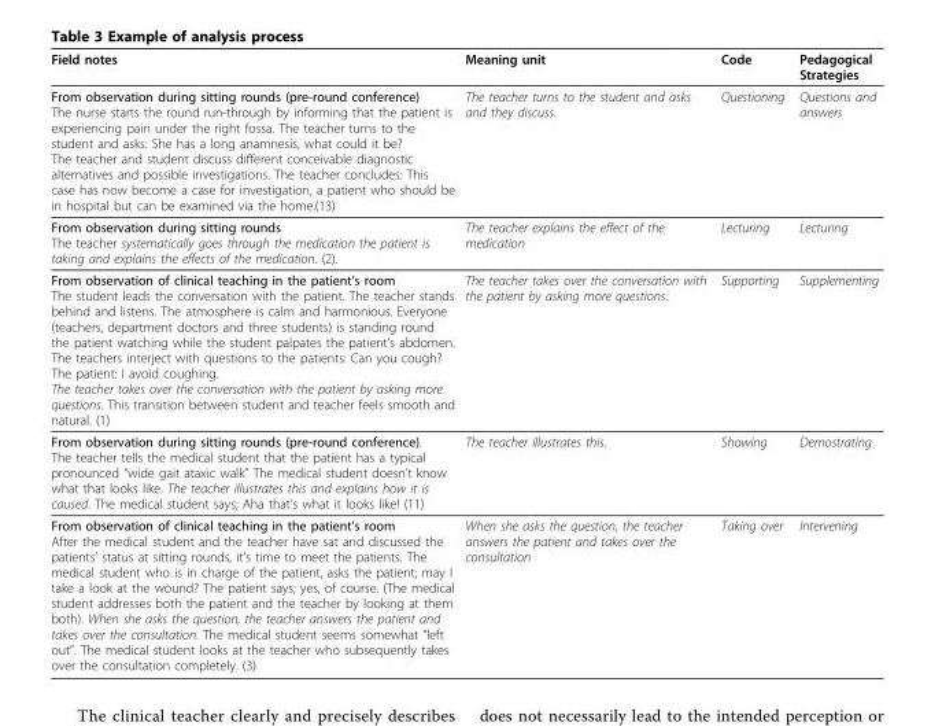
<table><thead><tr><td>Field notes</td><td>Meaning unit</td><td>Code</td><td>Pedagogical Strategies</td></tr></thead><tbody><tr><td>From observation during sitting rounds (pre-round conference) The nurse starts the round run-through by informing that the patient is experiencing pain under the right fossa. The teacher turns to the student and asks: She has a long anamnesis, what could it be? The teacher and student discuss different conceivable diagnostic alternatives and possible investigations. The teacher concludes: This case has now become a case for investigation, a patient who should be in hospital but can be examined via the home.(13)</td><td>The teacher turns to the student and asks and they discuss.</td><td>Questioning</td><td>Questions and answers</td></tr><tr><td>From observation during sitting rounds The teacher systematically goes through the medication the patient is taking and explains the effects of the medication. (2).</td><td>The teacher explains the effect of the medication</td><td>Lecturing</td><td>Lecturing</td></tr><tr><td>From observation of clinical teaching in the patient’s room The student leads the conversation with the patient. The teacher stands behind and listens. The atmosphere is calm and harmonious. Everyone (teachers, department doctors and three students) is standing round the patient watching while the student palpates the patient’s abdomen. The teachers interject with questions to the patients: Can you cough? The patient: I avoid coughing. The teacher takes over the conversation with the patient by asking more questions. This transition between student and teacher feels smooth and natural. (1)</td><td>The teacher takes over the conversation with the patient by asking more questions.</td><td>Supporting</td><td>Supplementing</td></tr><tr><td>From observation during sitting rounds (pre-round conference). The teacher tells the medical student that the patient has a typical pronounced “wide gait ataxic walk” The medical student doesn’t know what that looks like. The teacher illustrates this and explains how it is caused. The medical student says; Aha that’s what it looks like! (11)</td><td>The teacher illustrates this.</td><td>Showing</td><td>Demostrating</td></tr><tr><td>From observation of clinical teaching in the patient’s room After the medical student and the teacher have sat and discussed the patients’ status at sitting rounds, it’s time to meet the patients. The medical student who is in charge of the patient, asks the patient; may I take a look at the wound? The patient says; yes, of course. (The medical student addresses both the patient and the teacher by looking at them both). When she asks the question, the teacher answers the patient and takes over the consultation. The medical student seems somewhat “left out”. The medical student looks at the teacher who subsequently takes over the consultation completely. (3)</td><td>When she asks the question, the teacher answers the patient and takes over the consultation</td><td>Taking over</td><td>Intervening</td></tr></tbody></table>